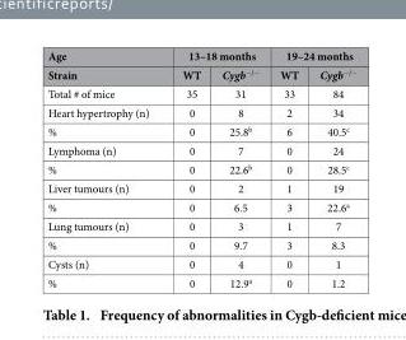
<table><thead><tr><td rowspan="2">Age Strain</td><td colspan="2">13–18 months</td><td colspan="2">19–24 months</td></tr><tr><td>WT</td><td>Cygb<sup>−/−</sup></td><td>WT</td><td>Cygb<sup>−/−</sup></td></tr></thead><tbody><tr><td>Total # of mice</td><td>35</td><td>31</td><td>33</td><td>84</td></tr><tr><td>Heart hypertrophy (n)</td><td>0</td><td>8</td><td>2</td><td>34</td></tr><tr><td>%</td><td>0</td><td>25.8<sup>b</sup></td><td>6</td><td>40.5<sup>c</sup></td></tr><tr><td>Lymphoma (n)</td><td>0</td><td>7</td><td>0</td><td>24</td></tr><tr><td>%</td><td>0</td><td>22.6<sup>b</sup></td><td>0</td><td>28.5<sup>c</sup></td></tr><tr><td>Liver tumours (n)</td><td>0</td><td>2</td><td>1</td><td>19</td></tr><tr><td>%</td><td>0</td><td>6.5</td><td>3</td><td>22.6<sup>a</sup></td></tr><tr><td>Lung tumours (n)</td><td>0</td><td>3</td><td>1</td><td>7</td></tr><tr><td>%</td><td>0</td><td>9.7</td><td>3</td><td>8.3</td></tr><tr><td>Cysts (n)</td><td>0</td><td>4</td><td>0</td><td>1</td></tr><tr><td>%</td><td>0</td><td>12.9<sup>a</sup></td><td>0</td><td>1.2</td></tr></tbody></table>